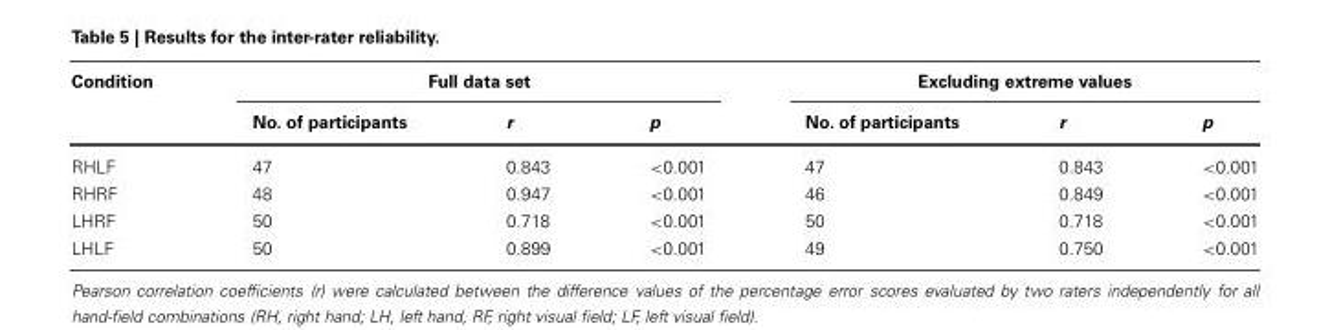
<table><thead><tr><td rowspan="2">Condition</td><td colspan="3">Full data set</td><td colspan="3">Excluding extreme values</td></tr><tr><td>No. of participants</td><td>r</td><td>p</td><td>No. of participants</td><td>r</td><td>p</td></tr></thead><tbody><tr><td>RHLF</td><td>47</td><td>0.843</td><td>&lt;0.001</td><td>47</td><td>0.843</td><td>&lt;0.001</td></tr><tr><td>RHRF</td><td>48</td><td>0.947</td><td>&lt;0.001</td><td>46</td><td>0.849</td><td>&lt;0.001</td></tr><tr><td>LHRF</td><td>50</td><td>0.718</td><td>&lt;0.001</td><td>50</td><td>0.718</td><td>&lt;0.001</td></tr><tr><td>LHLF</td><td>50</td><td>0.899</td><td>&lt;0.001</td><td>49</td><td>0.750</td><td>&lt;0.001</td></tr></tbody></table>